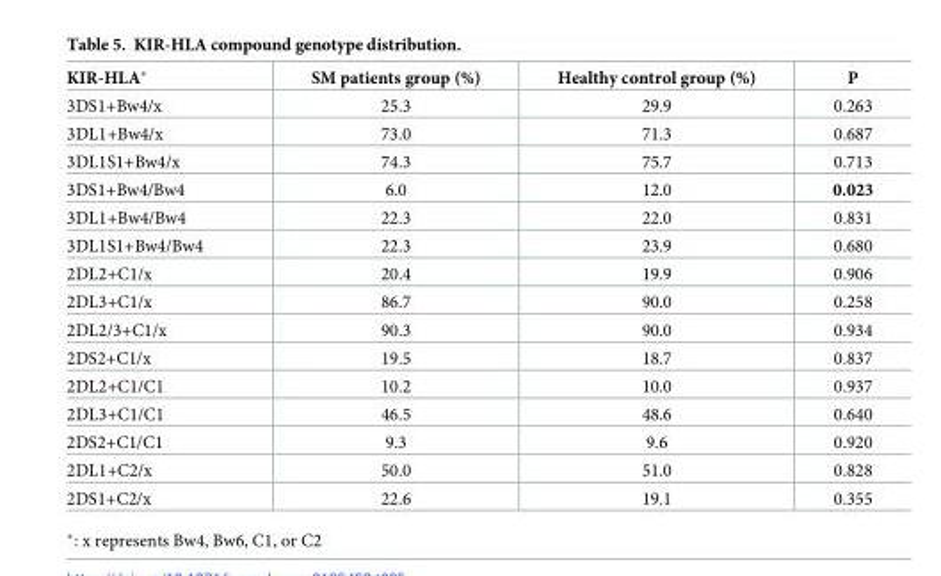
<table><thead><tr><td>KIR-HLA*</td><td>SM patients group (%)</td><td>Healthy control group (%)</td><td>P</td></tr></thead><tbody><tr><td>3DS1+Bw4/x</td><td>25.3</td><td>29.9</td><td>0.263</td></tr><tr><td>3DL1+Bw4/x</td><td>73.0</td><td>71.3</td><td>0.687</td></tr><tr><td>3DL1S1+Bw4/x</td><td>74.3</td><td>75.7</td><td>0.713</td></tr><tr><td>3DS1+Bw4/Bw4</td><td>6.0</td><td>12.0</td><td>0.023</td></tr><tr><td>3DL1+Bw4/Bw4</td><td>22.3</td><td>22.0</td><td>0.831</td></tr><tr><td>3DL1S1+Bw4/Bw4</td><td>22.3</td><td>23.9</td><td>0.680</td></tr><tr><td>2DL2+C1/x</td><td>20.4</td><td>19.9</td><td>0.906</td></tr><tr><td>2DL3+C1/x</td><td>86.7</td><td>90.0</td><td>0.258</td></tr><tr><td>2DL2/3+C1/x</td><td>90.3</td><td>90.0</td><td>0.934</td></tr><tr><td>2DS2+C1/x</td><td>19.5</td><td>18.7</td><td>0.837</td></tr><tr><td>2DL2+C1/C1</td><td>10.2</td><td>10.0</td><td>0.937</td></tr><tr><td>2DL3+C1/C1</td><td>46.5</td><td>48.6</td><td>0.640</td></tr><tr><td>2DS2+C1/C1</td><td>9.3</td><td>9.6</td><td>0.920</td></tr><tr><td>2DL1+C2/x</td><td>50.0</td><td>51.0</td><td>0.828</td></tr><tr><td>2DS1+C2/x</td><td>22.6</td><td>19.1</td><td>0.355</td></tr></tbody></table>